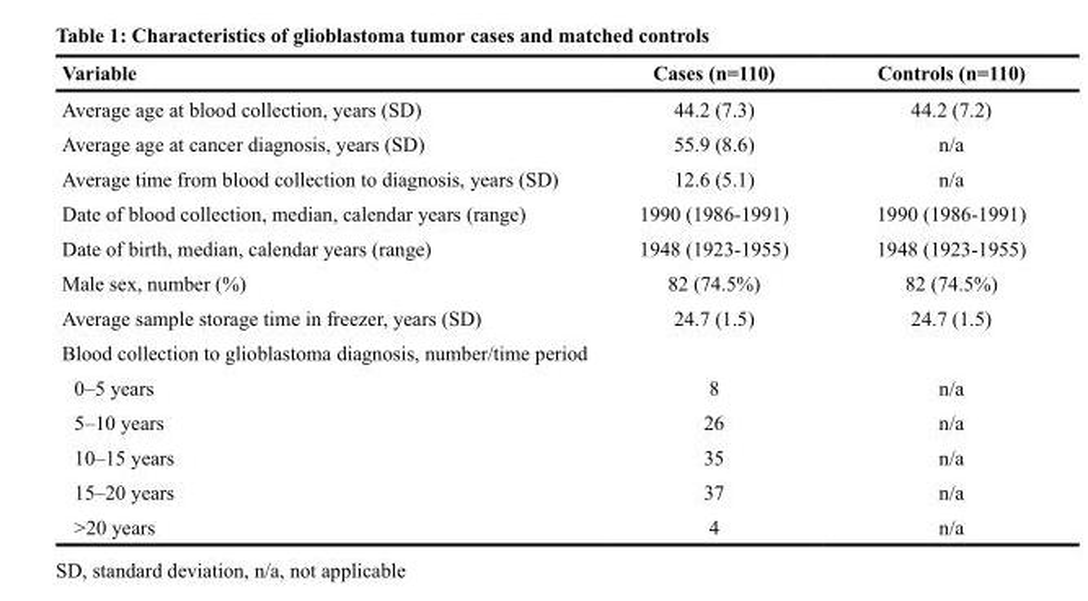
<table><thead><tr><td>Variable</td><td>Cases (n=110)</td><td>Controls (n=110)</td></tr></thead><tbody><tr><td>Average age at blood collection, years (SD)</td><td>44.2 (7.3)</td><td>44.2 (7.2)</td></tr><tr><td>Average age at cancer diagnosis, years (SD)</td><td>55.9 (8.6)</td><td>n/a</td></tr><tr><td>Average time from blood collection to diagnosis, years (SD)</td><td>12.6 (5.1)</td><td>n/a</td></tr><tr><td>Date of blood collection, median, calendar years (range)</td><td>1990 (1986-1991)</td><td>1990 (1986-1991)</td></tr><tr><td>Date of birth, median, calendar years (range)</td><td>1948 (1923-1955)</td><td>1948 (1923-1955)</td></tr><tr><td>Male sex, number (%)</td><td>82 (74.5%)</td><td>82 (74.5%)</td></tr><tr><td>Average sample storage time in freezer, years (SD)</td><td>24.7 (1.5)</td><td>24.7 (1.5)</td></tr><tr><td colspan="3">Blood collection to glioblastoma diagnosis, number/time period</td></tr><tr><td>0–5 years</td><td>8</td><td>n/a</td></tr><tr><td>5–10 years</td><td>26</td><td>n/a</td></tr><tr><td>10–15 years</td><td>35</td><td>n/a</td></tr><tr><td>15–20 years</td><td>37</td><td>n/a</td></tr><tr><td>&gt;20 years</td><td>4</td><td>n/a</td></tr></tbody></table>